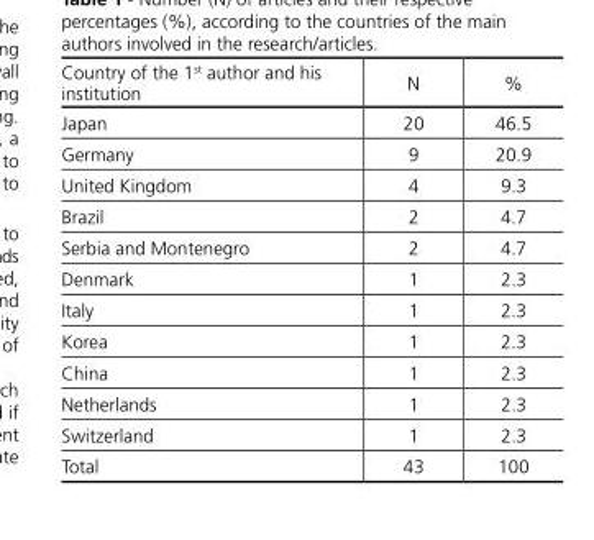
<table><thead><tr><td>Country of the 1<sup>st</sup> author and his institution</td><td>N</td><td>%</td></tr></thead><tbody><tr><td>Japan</td><td>20</td><td>46.5</td></tr><tr><td>Germany</td><td>9</td><td>20.9</td></tr><tr><td>United Kingdom</td><td>4</td><td>9.3</td></tr><tr><td>Brazil</td><td>2</td><td>4.7</td></tr><tr><td>Serbia and Montenegro</td><td>2</td><td>4.7</td></tr><tr><td>Denmark</td><td>1</td><td>2.3</td></tr><tr><td>Italy</td><td>1</td><td>2.3</td></tr><tr><td>Korea</td><td>1</td><td>2.3</td></tr><tr><td>China</td><td>1</td><td>2.3</td></tr><tr><td>Netherlands</td><td>1</td><td>2.3</td></tr><tr><td>Switzerland</td><td>1</td><td>2.3</td></tr><tr><td>Total</td><td>43</td><td>100</td></tr></tbody></table>